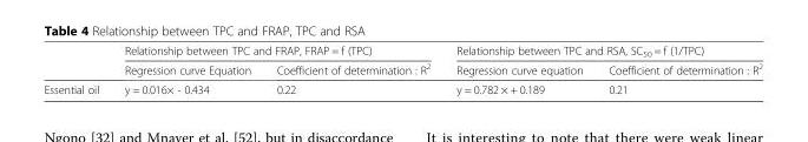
<table><thead><tr><td rowspan="2"></td><td colspan="2">Relationship between TPC and FRAP, FRAP = f (TPC)</td><td colspan="2">Relationship between TPC and RSA, SC<sub>50</sub> = f (1/TPC)</td></tr><tr><td>Regression curve Equation</td><td>Coefficient of determination : R<sup>2</sup></td><td>Regression curve equation</td><td>Coefficient of determination : R<sup>2</sup></td></tr></thead><tbody><tr><td>Essential oil</td><td>y = 0.016× - 0.434</td><td>0.22</td><td>y = 0.782 × + 0.189</td><td>0.21</td></tr></tbody></table>